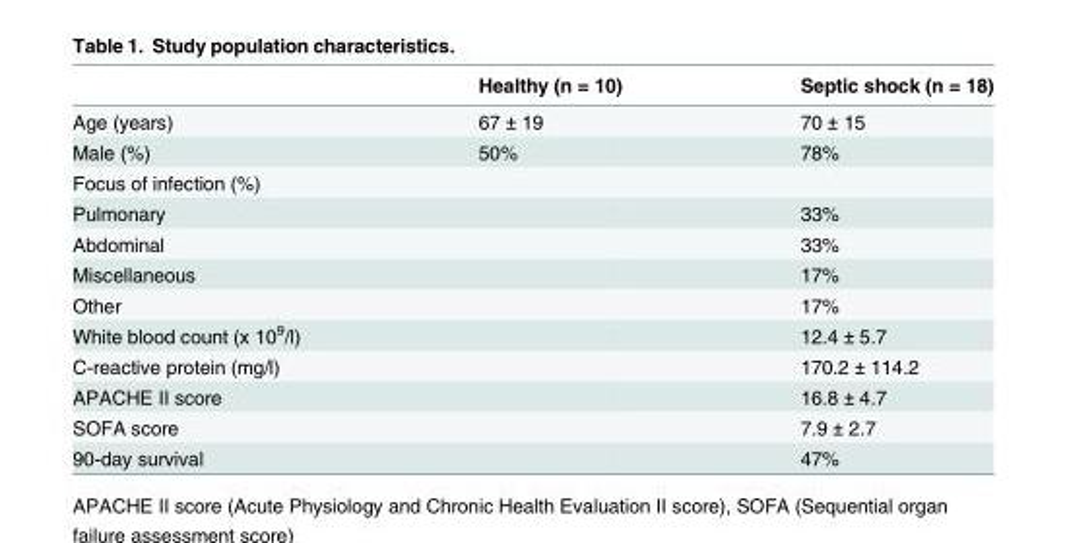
<table><thead><tr><td></td><td>Healthy (n = 10)</td><td>Septic shock (n = 18)</td></tr></thead><tbody><tr><td>Age (years)</td><td>67 ± 19</td><td>70 ± 15</td></tr><tr><td>Male (%)</td><td>50%</td><td>78%</td></tr><tr><td colspan="3">Focus of infection (%)</td></tr><tr><td>Pulmonary</td><td></td><td>33%</td></tr><tr><td>Abdominal</td><td></td><td>33%</td></tr><tr><td>Miscellaneous</td><td></td><td>17%</td></tr><tr><td>Other</td><td></td><td>17%</td></tr><tr><td>White blood count (x 10<sup>9</sup>/l)</td><td></td><td>12.4 ± 5.7</td></tr><tr><td>C-reactive protein (mg/l)</td><td></td><td>170.2 ± 114.2</td></tr><tr><td>APACHE II score</td><td></td><td>16.8 ± 4.7</td></tr><tr><td>SOFA score</td><td></td><td>7.9 ± 2.7</td></tr><tr><td>90-day survival</td><td></td><td>47%</td></tr></tbody></table>